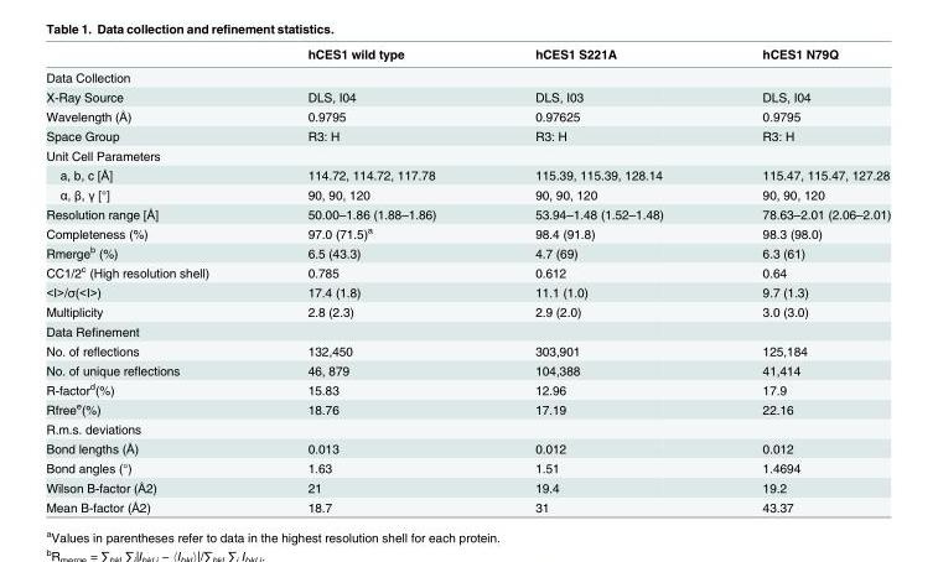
<table><thead><tr><td></td><td>hCES1 wild type</td><td>hCES1 S221A</td><td>hCES1 N79Q</td></tr></thead><tbody><tr><td colspan="4">Data Collection</td></tr><tr><td>X-Ray Source</td><td>DLS, I04</td><td>DLS, I03</td><td>DLS, I04</td></tr><tr><td>Wavelength (Å)</td><td>0.9795</td><td>0.97625</td><td>0.9795</td></tr><tr><td>Space Group</td><td>R3: H</td><td>R3: H</td><td>R3: H</td></tr><tr><td colspan="4">Unit Cell Parameters</td></tr><tr><td>a, b, c [Å]</td><td>114.72, 114.72, 117.78</td><td>115.39, 115.39, 128.14</td><td>115.47, 115.47, 127.28</td></tr><tr><td>α, β, γ [°]</td><td>90, 90, 120</td><td>90, 90, 120</td><td>90, 90, 120</td></tr><tr><td>Resolution range [Å]</td><td>50.00–1.86 (1.88–1.86)</td><td>53.94–1.48 (1.52–1.48)</td><td>78.63–2.01 (2.06–2.01)</td></tr><tr><td>Completeness (%)</td><td>97.0 (71.5)<sup>a</sup></td><td>98.4 (91.8)</td><td>98.3 (98.0)</td></tr><tr><td>Rmerge<sup>b</sup> (%)</td><td>6.5 (43.3)</td><td>4.7 (69)</td><td>6.3 (61)</td></tr><tr><td>CC1/2<sup>c</sup> (High resolution shell)</td><td>0.785</td><td>0.612</td><td>0.64</td></tr><tr><td>&lt;I&gt;/σ(&lt;I&gt;)</td><td>17.4 (1.8)</td><td>11.1 (1.0)</td><td>9.7 (1.3)</td></tr><tr><td>Multiplicity</td><td>2.8 (2.3)</td><td>2.9 (2.0)</td><td>3.0 (3.0)</td></tr><tr><td colspan="4">Data Refinement</td></tr><tr><td>No. of reflections</td><td>132,450</td><td>303,901</td><td>125,184</td></tr><tr><td>No. of unique reflections</td><td>46, 879</td><td>104,388</td><td>41,414</td></tr><tr><td>R-factor<sup>d</sup>(%)</td><td>15.83</td><td>12.96</td><td>17.9</td></tr><tr><td>Rfree<sup>e</sup>(%)</td><td>18.76</td><td>17.19</td><td>22.16</td></tr><tr><td colspan="4">R.m.s. deviations</td></tr><tr><td>Bond lengths (Å)</td><td>0.013</td><td>0.012</td><td>0.012</td></tr><tr><td>Bond angles (°)</td><td>1.63</td><td>1.51</td><td>1.4694</td></tr><tr><td>Wilson B-factor (Å2)</td><td>21</td><td>19.4</td><td>19.2</td></tr><tr><td>Mean B-factor (Å2)</td><td>18.7</td><td>31</td><td>43.37</td></tr></tbody></table>